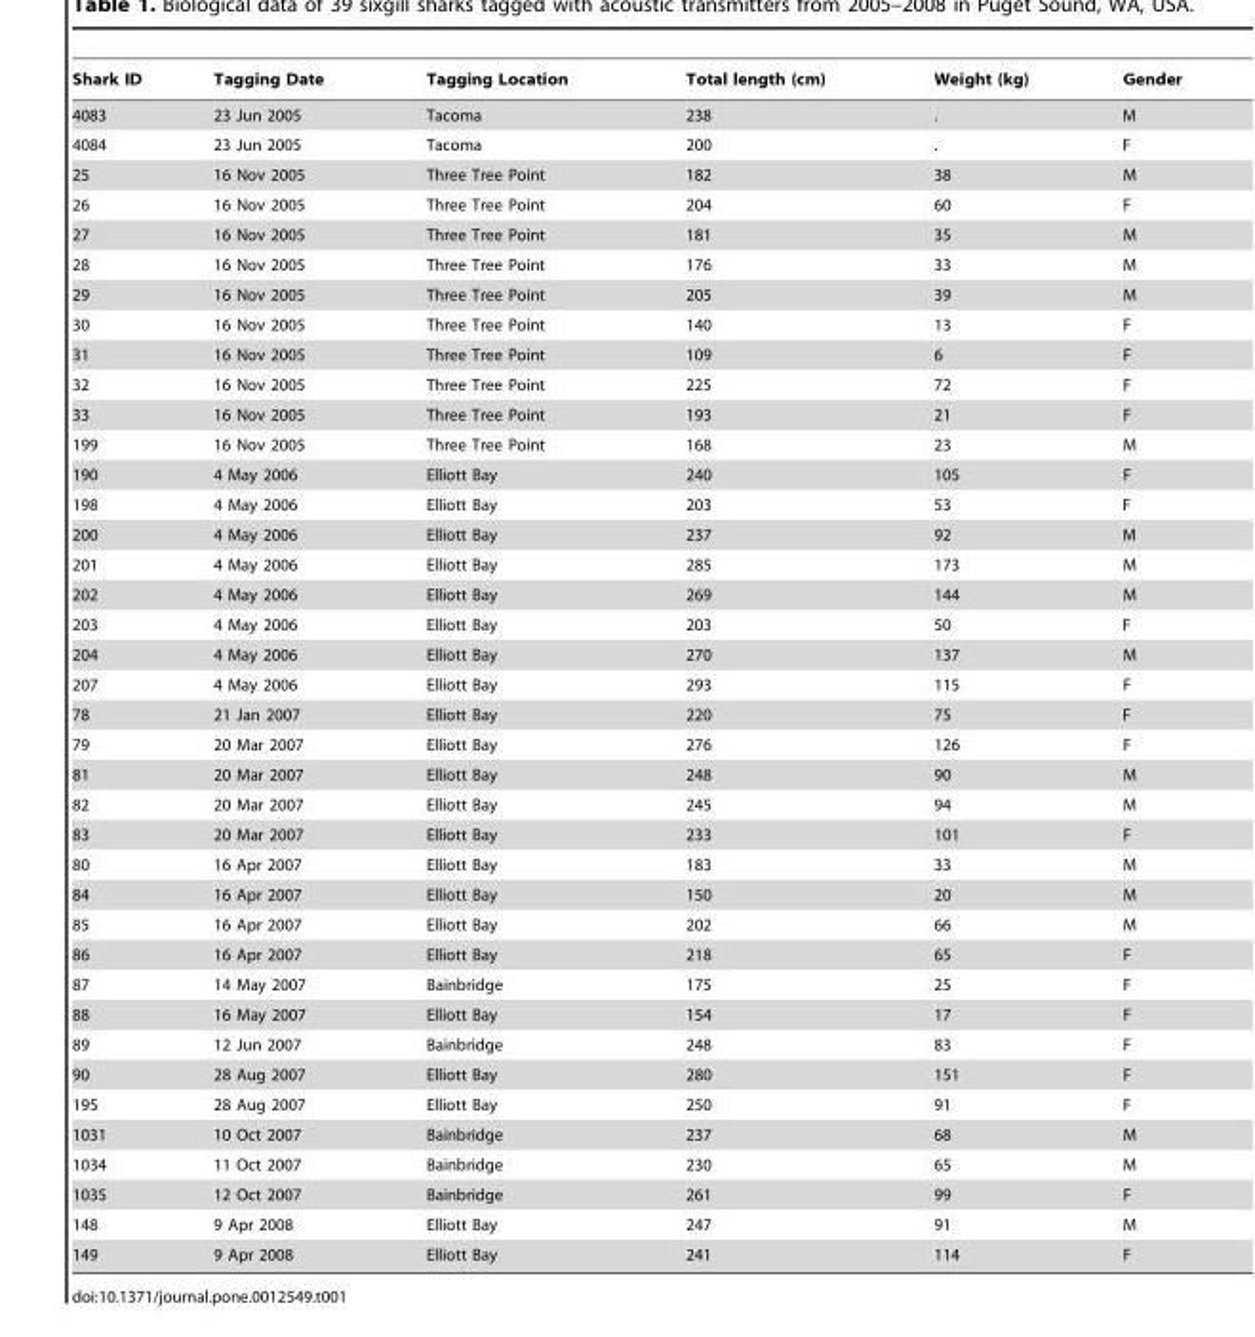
<table><thead><tr><td>Shark ID</td><td>Tagging Date</td><td>Tagging Location</td><td>Total length (cm)</td><td>Weight (kg)</td><td>Gender</td></tr></thead><tbody><tr><td>4083</td><td>23 Jun 2005</td><td>Tacoma</td><td>238</td><td>.</td><td>M</td></tr><tr><td>4084</td><td>23 Jun 2005</td><td>Tacoma</td><td>200</td><td>.</td><td>F</td></tr><tr><td>25</td><td>16 Nov 2005</td><td>Three Tree Point</td><td>182</td><td>38</td><td>M</td></tr><tr><td>26</td><td>16 Nov 2005</td><td>Three Tree Point</td><td>204</td><td>60</td><td>F</td></tr><tr><td>27</td><td>16 Nov 2005</td><td>Three Tree Point</td><td>181</td><td>35</td><td>M</td></tr><tr><td>28</td><td>16 Nov 2005</td><td>Three Tree Point</td><td>176</td><td>33</td><td>M</td></tr><tr><td>29</td><td>16 Nov 2005</td><td>Three Tree Point</td><td>205</td><td>39</td><td>M</td></tr><tr><td>30</td><td>16 Nov 2005</td><td>Three Tree Point</td><td>140</td><td>13</td><td>F</td></tr><tr><td>31</td><td>16 Nov 2005</td><td>Three Tree Point</td><td>109</td><td>6</td><td>F</td></tr><tr><td>32</td><td>16 Nov 2005</td><td>Three Tree Point</td><td>225</td><td>72</td><td>F</td></tr><tr><td>33</td><td>16 Nov 2005</td><td>Three Tree Point</td><td>193</td><td>21</td><td>F</td></tr><tr><td>199</td><td>16 Nov 2005</td><td>Three Tree Point</td><td>168</td><td>23</td><td>M</td></tr><tr><td>190</td><td>4 May 2006</td><td>Elliott Bay</td><td>240</td><td>105</td><td>F</td></tr><tr><td>198</td><td>4 May 2006</td><td>Elliott Bay</td><td>203</td><td>53</td><td>F</td></tr><tr><td>200</td><td>4 May 2006</td><td>Elliott Bay</td><td>237</td><td>92</td><td>M</td></tr><tr><td>201</td><td>4 May 2006</td><td>Elliott Bay</td><td>285</td><td>173</td><td>M</td></tr><tr><td>202</td><td>4 May 2006</td><td>Elliott Bay</td><td>269</td><td>144</td><td>M</td></tr><tr><td>203</td><td>4 May 2006</td><td>Elliott Bay</td><td>203</td><td>50</td><td>F</td></tr><tr><td>204</td><td>4 May 2006</td><td>Elliott Bay</td><td>270</td><td>137</td><td>M</td></tr><tr><td>207</td><td>4 May 2006</td><td>Elliott Bay</td><td>293</td><td>115</td><td>F</td></tr><tr><td>78</td><td>21 Jan 2007</td><td>Elliott Bay</td><td>220</td><td>75</td><td>F</td></tr><tr><td>79</td><td>20 Mar 2007</td><td>Elliott Bay</td><td>276</td><td>126</td><td>F</td></tr><tr><td>81</td><td>20 Mar 2007</td><td>Elliott Bay</td><td>248</td><td>90</td><td>M</td></tr><tr><td>82</td><td>20 Mar 2007</td><td>Elliott Bay</td><td>245</td><td>94</td><td>M</td></tr><tr><td>83</td><td>20 Mar 2007</td><td>Elliott Bay</td><td>233</td><td>101</td><td>F</td></tr><tr><td>80</td><td>16 Apr 2007</td><td>Elliott Bay</td><td>183</td><td>33</td><td>M</td></tr><tr><td>84</td><td>16 Apr 2007</td><td>Elliott Bay</td><td>150</td><td>20</td><td>M</td></tr><tr><td>85</td><td>16 Apr 2007</td><td>Elliott Bay</td><td>202</td><td>66</td><td>M</td></tr><tr><td>86</td><td>16 Apr 2007</td><td>Elliott Bay</td><td>218</td><td>65</td><td>F</td></tr><tr><td>87</td><td>14 May 2007</td><td>Bainbridge</td><td>175</td><td>25</td><td>F</td></tr><tr><td>88</td><td>16 May 2007</td><td>Elliott Bay</td><td>154</td><td>17</td><td>F</td></tr><tr><td>89</td><td>12 Jun 2007</td><td>Bainbridge</td><td>248</td><td>83</td><td>F</td></tr><tr><td>90</td><td>28 Aug 2007</td><td>Elliott Bay</td><td>280</td><td>151</td><td>F</td></tr><tr><td>195</td><td>28 Aug 2007</td><td>Elliott Bay</td><td>250</td><td>91</td><td>F</td></tr><tr><td>1031</td><td>10 Oct 2007</td><td>Bainbridge</td><td>237</td><td>68</td><td>M</td></tr><tr><td>1034</td><td>11 Oct 2007</td><td>Bainbridge</td><td>230</td><td>65</td><td>M</td></tr><tr><td>1035</td><td>12 Oct 2007</td><td>Bainbridge</td><td>261</td><td>99</td><td>F</td></tr><tr><td>148</td><td>9 Apr 2008</td><td>Elliott Bay</td><td>247</td><td>91</td><td>M</td></tr><tr><td>149</td><td>9 Apr 2008</td><td>Elliott Bay</td><td>241</td><td>114</td><td>F</td></tr></tbody></table>